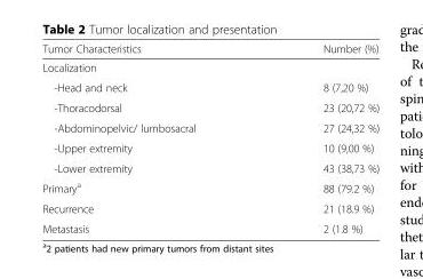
<table><thead><tr><td>Tumor Characteristics</td><td>Number (%)</td></tr></thead><tbody><tr><td colspan="2">Localization</td></tr><tr><td>-Head and neck</td><td>8 (7,20 %)</td></tr><tr><td>-Thoracodorsal</td><td>23 (20,72 %)</td></tr><tr><td>-Abdominopelvic/ lumbosacral</td><td>27 (24,32 %)</td></tr><tr><td>-Upper extremity</td><td>10 (9,00 %)</td></tr><tr><td>-Lower extremity</td><td>43 (38,73 %)</td></tr><tr><td>Primary<sup>a</sup></td><td>88 (79.2 %)</td></tr><tr><td>Recurrence</td><td>21 (18.9 %)</td></tr><tr><td>Metastasis</td><td>2 (1.8 %)</td></tr></tbody></table>